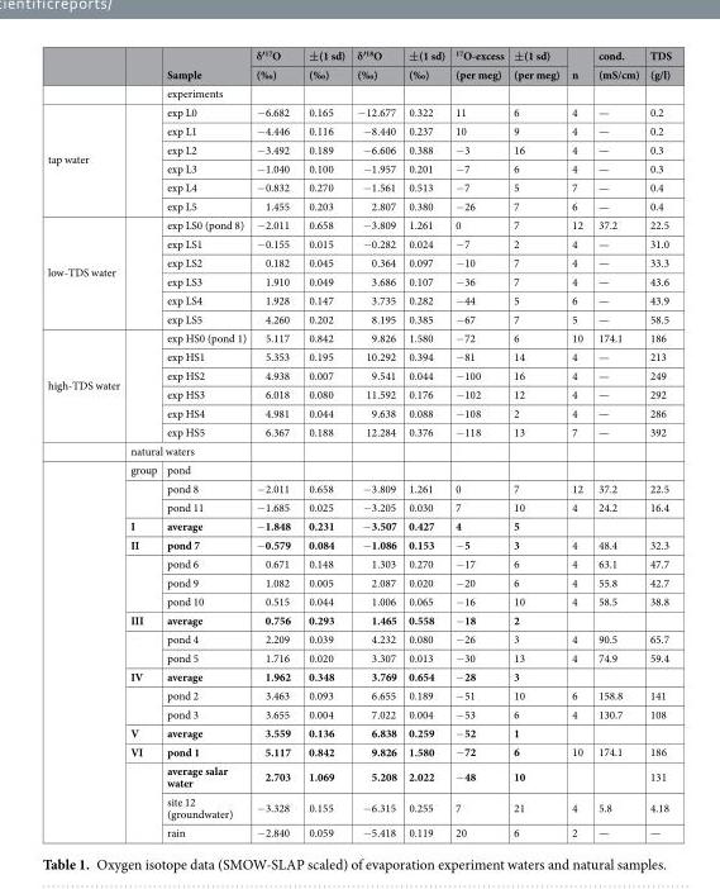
<table><thead><tr><td rowspan="2"></td><td rowspan="2"></td><td rowspan="2">Sample</td><td rowspan="2">δ′<sup>17</sup>O (‰)</td><td rowspan="2">±(1 sd) (‰)</td><td rowspan="2">δ′<sup>18</sup>O (‰)</td><td rowspan="2">±(1 sd) (‰)</td><td rowspan="2"><sup>17</sup>O-excess (per meg)</td><td rowspan="2">±(1 sd) (per meg)</td><td rowspan="2">n</td><td rowspan="2">cond. (mS/cm)</td><td rowspan="2">TDS (g/l)</td></tr><tr></tr></thead><tbody><tr><td></td><td></td><td>experiments</td><td></td><td></td><td></td><td></td><td></td><td></td><td></td><td></td><td></td></tr><tr><td rowspan="6">tap water</td><td rowspan="6"></td><td>exp L0</td><td>−6.682</td><td>0.165</td><td>−12.677</td><td>0.322</td><td>11</td><td>6</td><td>4</td><td>—</td><td>0.2</td></tr><tr><td>exp L1</td><td>−4.446</td><td>0.116</td><td>−8.440</td><td>0.237</td><td>10</td><td>9</td><td>4</td><td>—</td><td>0.2</td></tr><tr><td>exp L2</td><td>−3.492</td><td>0.189</td><td>−6.606</td><td>0.388</td><td>−3</td><td>16</td><td>4</td><td>—</td><td>0.3</td></tr><tr><td>exp L3</td><td>−1.040</td><td>0.100</td><td>−1.957</td><td>0.201</td><td>−7</td><td>6</td><td>4</td><td>—</td><td>0.3</td></tr><tr><td>exp L4</td><td>−0.832</td><td>0.270</td><td>−1.561</td><td>0.513</td><td>−7</td><td>5</td><td>7</td><td>—</td><td>0.4</td></tr><tr><td>exp L5</td><td>1.455</td><td>0.203</td><td>2.807</td><td>0.380</td><td>−26</td><td>7</td><td>6</td><td>—</td><td>0.4</td></tr><tr><td rowspan="6">low-TDS water</td><td rowspan="6"></td><td>exp LS0 (pond 8)</td><td>−2.011</td><td>0.658</td><td>−3.809</td><td>1.261</td><td>0</td><td>7</td><td>12</td><td>37.2</td><td>22.5</td></tr><tr><td>exp LS1</td><td>−0.155</td><td>0.015</td><td>−0.282</td><td>0.024</td><td>−7</td><td>2</td><td>4</td><td>—</td><td>31.0</td></tr><tr><td>exp LS2</td><td>0.182</td><td>0.045</td><td>0.364</td><td>0.097</td><td>−10</td><td>7</td><td>4</td><td>—</td><td>33.3</td></tr><tr><td>exp LS3</td><td>1.910</td><td>0.049</td><td>3.686</td><td>0.107</td><td>−36</td><td>7</td><td>4</td><td>—</td><td>43.6</td></tr><tr><td>exp LS4</td><td>1.928</td><td>0.147</td><td>3.735</td><td>0.282</td><td>−44</td><td>5</td><td>6</td><td>—</td><td>43.9</td></tr><tr><td>exp LS5</td><td>4.260</td><td>0.202</td><td>8.195</td><td>0.385</td><td>−67</td><td>7</td><td>5</td><td>—</td><td>58.5</td></tr><tr><td rowspan="26">high-TDS water</td><td rowspan="6"></td><td>exp HS0 (pond 1)</td><td>5.117</td><td>0.842</td><td>9.826</td><td>1.580</td><td>−72</td><td>6</td><td>10</td><td>174.1</td><td>186</td></tr><tr><td>exp HS1</td><td>5.353</td><td>0.195</td><td>10.292</td><td>0.394</td><td>−81</td><td>14</td><td>4</td><td>—</td><td>213</td></tr><tr><td>exp HS2</td><td>4.938</td><td>0.007</td><td>9.541</td><td>0.044</td><td>−100</td><td>16</td><td>4</td><td>—</td><td>249</td></tr><tr><td>exp HS3</td><td>6.018</td><td>0.080</td><td>11.592</td><td>0.176</td><td>−102</td><td>12</td><td>4</td><td>—</td><td>292</td></tr><tr><td>exp HS4</td><td>4.981</td><td>0.044</td><td>9.638</td><td>0.088</td><td>−108</td><td>2</td><td>4</td><td>—</td><td>286</td></tr><tr><td>exp HS5</td><td>6.367</td><td>0.188</td><td>12.284</td><td>0.376</td><td>−118</td><td>13</td><td>7</td><td>—</td><td>392</td></tr><tr><td colspan="2">natural waters</td><td></td><td></td><td></td><td></td><td></td><td></td><td></td><td></td><td></td></tr><tr><td>group</td><td>pond</td><td></td><td></td><td></td><td></td><td></td><td></td><td></td><td></td><td></td></tr><tr><td rowspan="2"></td><td>pond 8</td><td>−2.011</td><td>0.658</td><td>−3.809</td><td>1.261</td><td>0</td><td>7</td><td>12</td><td>37.2</td><td>22.5</td></tr><tr><td>pond 11</td><td>−1.685</td><td>0.025</td><td>−3.205</td><td>0.030</td><td>7</td><td>10</td><td>4</td><td>24.2</td><td>16.4</td></tr><tr><td>I</td><td>average</td><td>−1.848</td><td>0.231</td><td>−3.507</td><td>0.427</td><td>4</td><td>5</td><td></td><td></td><td></td></tr><tr><td>II</td><td>pond 7</td><td>−0.579</td><td>0.084</td><td>−1.086</td><td>0.153</td><td>−5</td><td>3</td><td>4</td><td>48.4</td><td>32.3</td></tr><tr><td rowspan="3"></td><td>pond 6</td><td>0.671</td><td>0.148</td><td>1.303</td><td>0.270</td><td>−17</td><td>6</td><td>4</td><td>63.1</td><td>47.7</td></tr><tr><td>pond 9</td><td>1.082</td><td>0.005</td><td>2.087</td><td>0.020</td><td>−20</td><td>6</td><td>4</td><td>55.8</td><td>42.7</td></tr><tr><td>pond 10</td><td>0.515</td><td>0.044</td><td>1.006</td><td>0.065</td><td>−16</td><td>10</td><td>4</td><td>58.5</td><td>38.8</td></tr><tr><td>III</td><td>average</td><td>0.756</td><td>0.293</td><td>1.465</td><td>0.558</td><td>−18</td><td>2</td><td></td><td></td><td></td></tr><tr><td rowspan="2"></td><td>pond 4</td><td>2.209</td><td>0.039</td><td>4.232</td><td>0.080</td><td>−26</td><td>3</td><td>4</td><td>90.5</td><td>65.7</td></tr><tr><td>pond 5</td><td>1.716</td><td>0.020</td><td>3.307</td><td>0.013</td><td>−30</td><td>13</td><td>4</td><td>74.9</td><td>59.4</td></tr><tr><td>IV</td><td>average</td><td>1.962</td><td>0.348</td><td>3.769</td><td>0.654</td><td>−28</td><td>3</td><td></td><td></td><td></td></tr><tr><td rowspan="2"></td><td>pond 2</td><td>3.463</td><td>0.093</td><td>6.655</td><td>0.189</td><td>−51</td><td>10</td><td>6</td><td>158.8</td><td>141</td></tr><tr><td>pond 3</td><td>3.655</td><td>0.004</td><td>7.022</td><td>0.004</td><td>−53</td><td>6</td><td>4</td><td>130.7</td><td>108</td></tr><tr><td>V</td><td>average</td><td>3.559</td><td>0.136</td><td>6.838</td><td>0.259</td><td>−52</td><td>1</td><td></td><td></td><td></td></tr><tr><td>VI</td><td>pond 1</td><td>5.117</td><td>0.842</td><td>9.826</td><td>1.580</td><td>−72</td><td>6</td><td>10</td><td>174.1</td><td>186</td></tr><tr><td rowspan="3"></td><td>average salar water</td><td>2.703</td><td>1.069</td><td>5.208</td><td>2.022</td><td>−48</td><td>10</td><td></td><td></td><td>131</td></tr><tr><td>site 12 (groundwater)</td><td>−3.328</td><td>0.155</td><td>−6.315</td><td>0.255</td><td>7</td><td>21</td><td>4</td><td>5.8</td><td>4.18</td></tr><tr><td>rain</td><td>−2.840</td><td>0.059</td><td>−5.418</td><td>0.119</td><td>20</td><td>6</td><td>2</td><td>—</td><td>—</td></tr></tbody></table>